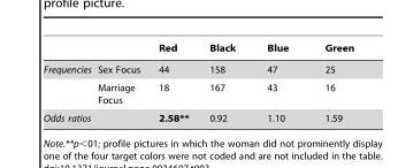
<table><thead><tr><td></td><td></td><td>Red</td><td>Black</td><td>Blue</td><td>Green</td></tr></thead><tbody><tr><td rowspan="2">Frequencies</td><td>Sex Focus</td><td>44</td><td>158</td><td>47</td><td>25</td></tr><tr><td>Marriage Focus</td><td>18</td><td>167</td><td>43</td><td>16</td></tr><tr><td>Odds ratios</td><td></td><td>2.58**</td><td>0.92</td><td>1.10</td><td>1.59</td></tr></tbody></table>